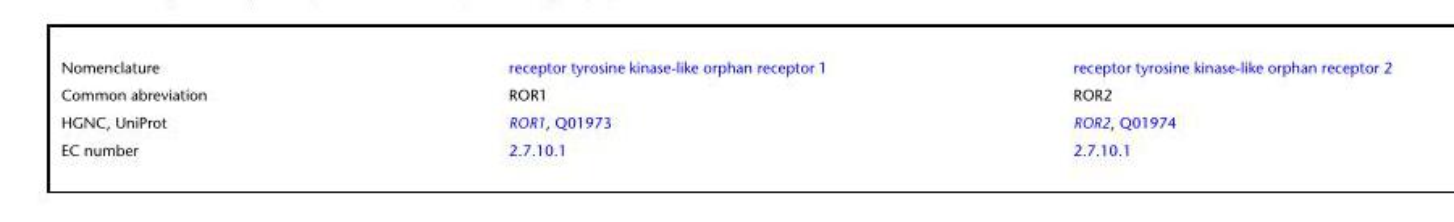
<table><tbody><tr><td>Nomenclature</td><td>receptor tyrosine kinase-like orphan receptor 1</td><td>receptor tyrosine kinase-like orphan receptor 2</td></tr><tr><td>Common abreviation</td><td>ROR1</td><td>ROR2</td></tr><tr><td>HGNC, UniProt</td><td>ROR1, Q01973</td><td>ROR2, Q01974</td></tr><tr><td>EC number</td><td>2.7.10.1</td><td>2.7.10.1</td></tr></tbody></table>